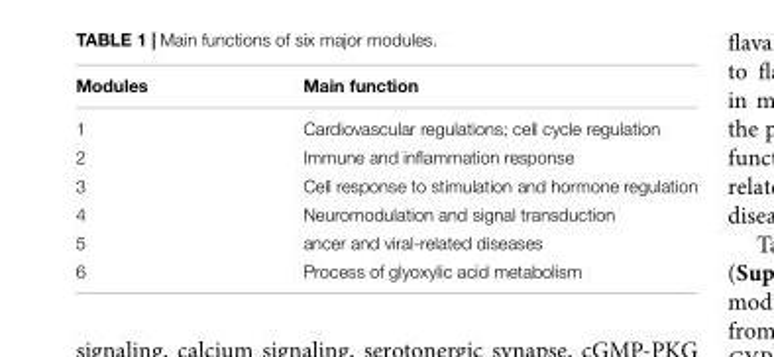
<table><thead><tr><td>Modules</td><td>Main function</td></tr></thead><tbody><tr><td>1</td><td>Cardiovascular regulations; cell cycle regulation</td></tr><tr><td>2</td><td>Immune and inflammation response</td></tr><tr><td>3</td><td>Cell response to stimulation and hormone regulation</td></tr><tr><td>4</td><td>Neuromodulation and signal transduction</td></tr><tr><td>5</td><td>ancer and viral-related diseases</td></tr><tr><td>6</td><td>Process of glyoxylic acid metabolism</td></tr></tbody></table>